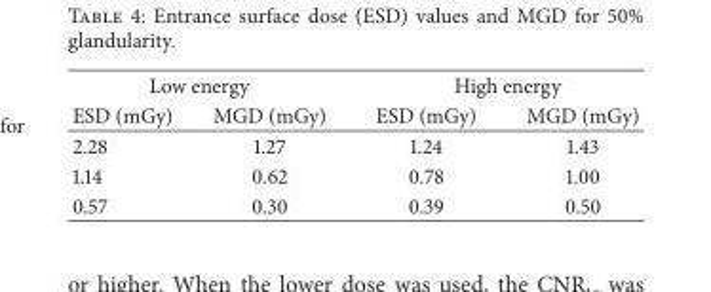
<table><thead><tr><td colspan="2">Low energy</td><td colspan="2">High energy</td></tr><tr><td>ESD (mGy)</td><td>MGD (mGy)</td><td>ESD (mGy)</td><td>MGD (mGy)</td></tr></thead><tbody><tr><td>2.28</td><td>1.27</td><td>1.24</td><td>1.43</td></tr><tr><td>1.14</td><td>0.62</td><td>0.78</td><td>1.00</td></tr><tr><td>0.57</td><td>0.30</td><td>0.39</td><td>0.50</td></tr></tbody></table>